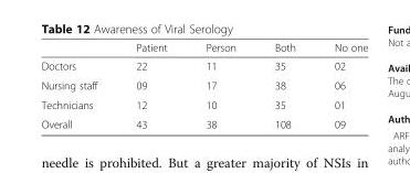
<table><thead><tr><td></td><td>Patient</td><td>Person</td><td>Both</td><td>No one</td></tr></thead><tbody><tr><td>Doctors</td><td>22</td><td>11</td><td>35</td><td>02</td></tr><tr><td>Nursing staff</td><td>09</td><td>17</td><td>38</td><td>06</td></tr><tr><td>Technicians</td><td>12</td><td>10</td><td>35</td><td>01</td></tr><tr><td>Overall</td><td>43</td><td>38</td><td>108</td><td>09</td></tr></tbody></table>